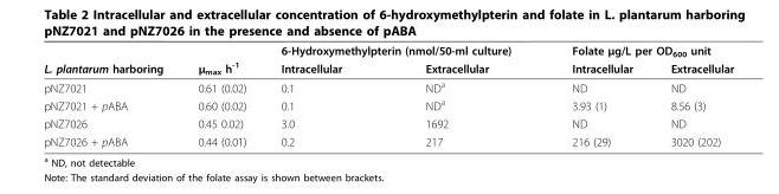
<table><thead><tr><td rowspan="2">L. plantarum harboring</td><td rowspan="2">μ<sub>max</sub> h<sup>-1</sup></td><td colspan="2">6-Hydroxymethylpterin (nmol/50-ml culture)</td><td colspan="2">Folate μg/L per OD<sub>600</sub> unit</td></tr><tr><td>Intracellular</td><td>Extracellular</td><td>Intracellular</td><td>Extracellular</td></tr></thead><tbody><tr><td>pNZ7021</td><td>0.61 (0.02)</td><td>0.1</td><td>ND<sup>a</sup></td><td>ND</td><td>ND</td></tr><tr><td>pNZ7021 + pABA</td><td>0.60 (0.02)</td><td>0.1</td><td>ND<sup>a</sup></td><td>3.93 (1)</td><td>8.56 (3)</td></tr><tr><td>pNZ7026</td><td>0.45 0.02)</td><td>3.0</td><td>1692</td><td>ND</td><td>ND</td></tr><tr><td>pNZ7026 + pABA</td><td>0.44 (0.01)</td><td>0.2</td><td>217</td><td>216 (29)</td><td>3020 (202)</td></tr></tbody></table>